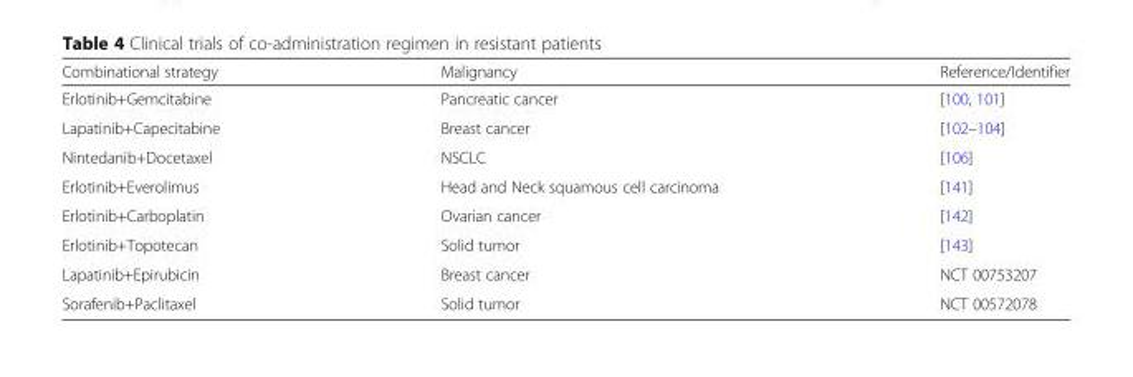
<table><thead><tr><td>Combinational strategy</td><td>Malignancy</td><td>Reference/Identifier</td></tr></thead><tbody><tr><td>Erlotinib+Gemcitabine</td><td>Pancreatic cancer</td><td>[100, 101]</td></tr><tr><td>Lapatinib+Capecitabine</td><td>Breast cancer</td><td>[102–104]</td></tr><tr><td>Nintedanib+Docetaxel</td><td>NSCLC</td><td>[106]</td></tr><tr><td>Erlotinib+Everolimus</td><td>Head and Neck squamous cell carcinoma</td><td>[141]</td></tr><tr><td>Erlotinib+Carboplatin</td><td>Ovarian cancer</td><td>[142]</td></tr><tr><td>Erlotinib+Topotecan</td><td>Solid tumor</td><td>[143]</td></tr><tr><td>Lapatinib+Epirubicin</td><td>Breast cancer</td><td>NCT 00753207</td></tr><tr><td>Sorafenib+Paclitaxel</td><td>Solid tumor</td><td>NCT 00572078</td></tr></tbody></table>